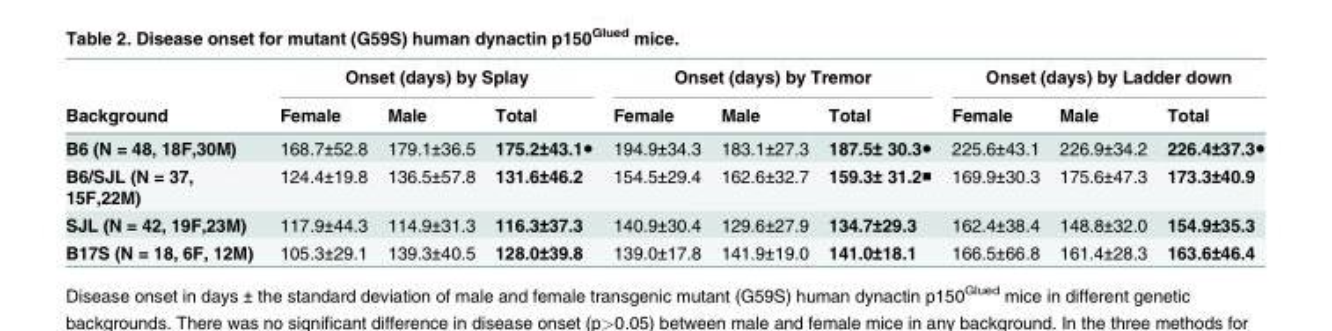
<table><thead><tr><td rowspan="2">Background</td><td colspan="3">Onset (days) by Splay</td><td colspan="3">Onset (days) by Tremor</td><td colspan="3">Onset (days) by Ladder down</td></tr><tr><td>Female</td><td>Male</td><td>Total</td><td>Female</td><td>Male</td><td>Total</td><td>Female</td><td>Male</td><td>Total</td></tr></thead><tbody><tr><td>B6 (N = 48, 18F,30M)</td><td>168.7±52.8</td><td>179.1±36.5</td><td>175.2±43.1●</td><td>194.9±34.3</td><td>183.1±27.3</td><td>187.5± 30.3●</td><td>225.6±43.1</td><td>226.9±34.2</td><td>226.4±37.3●</td></tr><tr><td>B6/SJL (N = 37, 15F,22M)</td><td>124.4±19.8</td><td>136.5±57.8</td><td>131.6±46.2</td><td>154.5±29.4</td><td>162.6±32.7</td><td>159.3± 31.2■</td><td>169.9±30.3</td><td>175.6±47.3</td><td>173.3±40.9</td></tr><tr><td>SJL (N = 42, 19F,23M)</td><td>117.9±44.3</td><td>114.9±31.3</td><td>116.3±37.3</td><td>140.9±30.4</td><td>129.6±27.9</td><td>134.7±29.3</td><td>162.4±38.4</td><td>148.8±32.0</td><td>154.9±35.3</td></tr><tr><td>B17S (N = 18, 6F, 12M)</td><td>105.3±29.1</td><td>139.3±40.5</td><td>128.0±39.8</td><td>139.0±17.8</td><td>141.9±19.0</td><td>141.0±18.1</td><td>166.5±66.8</td><td>161.4±28.3</td><td>163.6±46.4</td></tr></tbody></table>